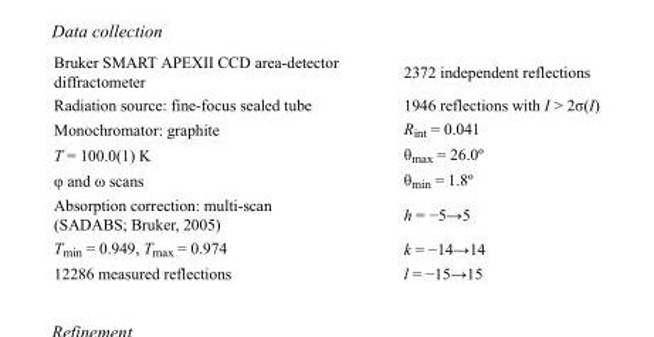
<table><tbody><tr><td>Bruker SMART APEXII CCD area-detector diffractometer</td><td>2372 independent reflections</td></tr><tr><td>Radiation source: fine-focus sealed tube</td><td>1946 reflections with I &gt; 2σ(I)</td></tr><tr><td>Monochromator: graphite</td><td>R<sub>int</sub> = 0.041</td></tr><tr><td>T = 100.0(1) K</td><td>θ<sub>max</sub> = 26.0º</td></tr><tr><td>φ and ω scans</td><td>θ<sub>min</sub> = 1.8º</td></tr><tr><td>Absorption correction: multi-scan (SADABS; Bruker, 2005)</td><td>h = −5→5</td></tr><tr><td>T<sub>min</sub> = 0.949, T<sub>max</sub> = 0.974</td><td>k = −14→14</td></tr><tr><td>12286 measured reflections</td><td>l = −15→15</td></tr></tbody></table>